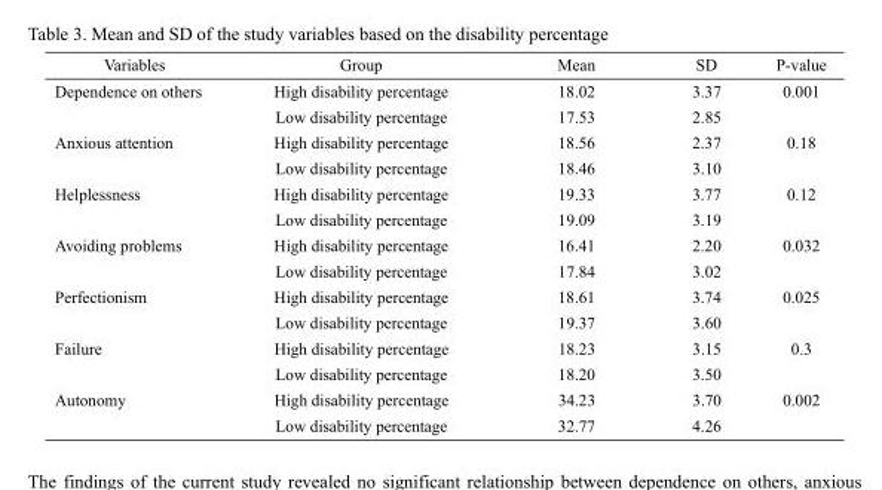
<table><thead><tr><td>Variables</td><td>Group</td><td>Mean</td><td>SD</td><td>P-value</td></tr></thead><tbody><tr><td rowspan="2">Dependence on others</td><td>High disability percentage</td><td>18.02</td><td>3.37</td><td rowspan="2">0.001</td></tr><tr><td>Low disability percentage</td><td>17.53</td><td>2.85</td></tr><tr><td rowspan="2">Anxious attention</td><td>High disability percentage</td><td>18.56</td><td>2.37</td><td rowspan="2">0.18</td></tr><tr><td>Low disability percentage</td><td>18.46</td><td>3.10</td></tr><tr><td rowspan="2">Helplessness</td><td>High disability percentage</td><td>19.33</td><td>3.77</td><td rowspan="2">0.12</td></tr><tr><td>Low disability percentage</td><td>19.09</td><td>3.19</td></tr><tr><td rowspan="2">Avoiding problems</td><td>High disability percentage</td><td>16.41</td><td>2.20</td><td rowspan="2">0.032</td></tr><tr><td>Low disability percentage</td><td>17.84</td><td>3.02</td></tr><tr><td rowspan="2">Perfectionism</td><td>High disability percentage</td><td>18.61</td><td>3.74</td><td rowspan="2">0.025</td></tr><tr><td>Low disability percentage</td><td>19.37</td><td>3.60</td></tr><tr><td rowspan="2">Failure</td><td>High disability percentage</td><td>18.23</td><td>3.15</td><td rowspan="2">0.3</td></tr><tr><td>Low disability percentage</td><td>18.20</td><td>3.50</td></tr><tr><td rowspan="2">Autonomy</td><td>High disability percentage</td><td>34.23</td><td>3.70</td><td rowspan="2">0.002</td></tr><tr><td>Low disability percentage</td><td>32.77</td><td>4.26</td></tr></tbody></table>